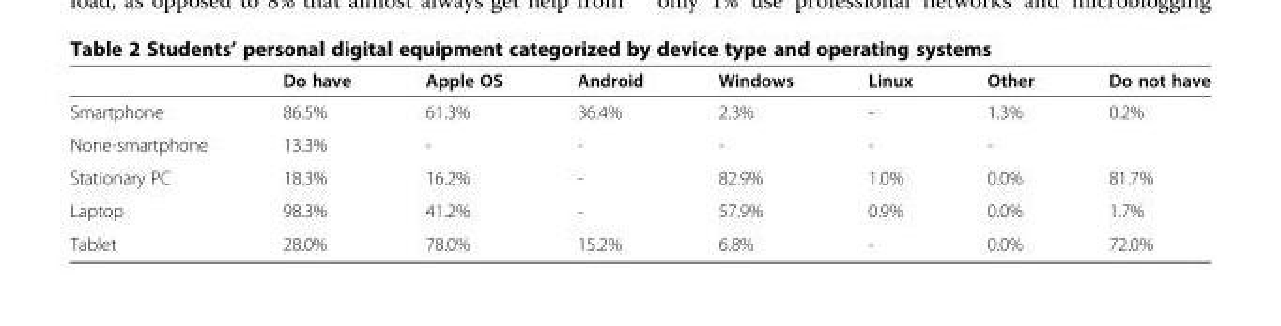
<table><thead><tr><td></td><td>Do have</td><td>Apple OS</td><td>Android</td><td>Windows</td><td>Linux</td><td>Other</td><td>Do not have</td></tr></thead><tbody><tr><td>Smartphone</td><td>86.5%</td><td>61.3%</td><td>36.4%</td><td>2.3%</td><td>-</td><td>1.3%</td><td rowspan="2">0.2%</td></tr><tr><td>None-smartphone</td><td>13.3%</td><td>-</td><td>-</td><td>-</td><td>-</td><td>-</td></tr><tr><td>Stationary PC</td><td>18.3%</td><td>16.2%</td><td>-</td><td>82.9%</td><td>1.0%</td><td>0.0%</td><td>81.7%</td></tr><tr><td>Laptop</td><td>98.3%</td><td>41.2%</td><td>-</td><td>57.9%</td><td>0.9%</td><td>0.0%</td><td>1.7%</td></tr><tr><td>Tablet</td><td>28.0%</td><td>78.0%</td><td>15.2%</td><td>6.8%</td><td>-</td><td>0.0%</td><td>72.0%</td></tr></tbody></table>